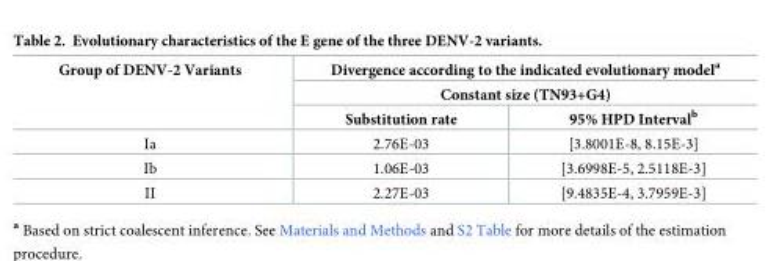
<table><thead><tr><td rowspan="3">Group of DENV-2 Variants</td><td rowspan="2" colspan="2">Divergence according to the indicated evolutionary model<sup>a</sup> Constant size (TN93+G4)</td></tr><tr></tr><tr><td>Substitution rate</td><td>95% HPD Interval<sup>b</sup></td></tr></thead><tbody><tr><td>Ia</td><td>2.76E-03</td><td>[3.8001E-8, 8.15E-3]</td></tr><tr><td>Ib</td><td>1.06E-03</td><td>[3.6998E-5, 2.5118E-3]</td></tr><tr><td>II</td><td>2.27E-03</td><td>[9.4835E-4, 3.7959E-3]</td></tr></tbody></table>